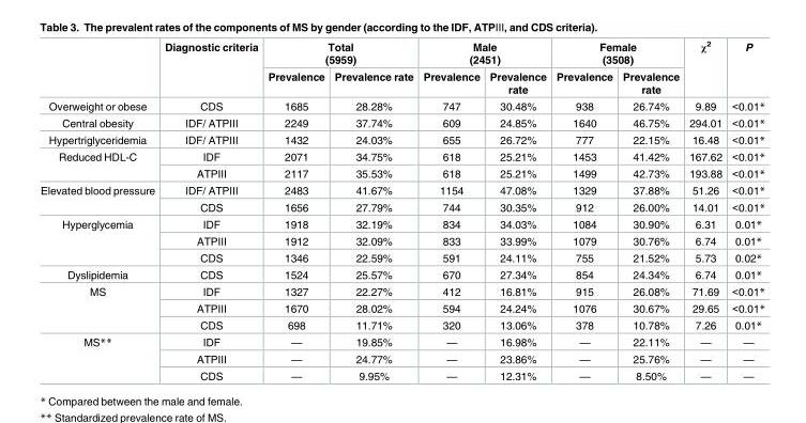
<table><thead><tr><td rowspan="2"></td><td rowspan="2">Diagnostic criteria</td><td colspan="2">Total (5959)</td><td colspan="2">Male (2451)</td><td colspan="2">Female (3508)</td><td rowspan="2">χ<sup>2</sup></td><td rowspan="2">P</td></tr><tr><td>Prevalence</td><td>Prevalence rate</td><td>Prevalence</td><td>Prevalence rate</td><td>Prevalence</td><td>Prevalence rate</td></tr></thead><tbody><tr><td>Overweight or obese</td><td>CDS</td><td>1685</td><td>28.28%</td><td>747</td><td>30.48%</td><td>938</td><td>26.74%</td><td>9.89</td><td>&lt;0.01*</td></tr><tr><td>Central obesity</td><td>IDF/ ATPⅢ</td><td>2249</td><td>37.74%</td><td>609</td><td>24.85%</td><td>1640</td><td>46.75%</td><td>294.01</td><td>&lt;0.01*</td></tr><tr><td>Hypertriglyceridemia</td><td>IDF/ ATPⅢ</td><td>1432</td><td>24.03%</td><td>655</td><td>26.72%</td><td>777</td><td>22.15%</td><td>16.48</td><td>&lt;0.01*</td></tr><tr><td rowspan="2">Reduced HDL-C</td><td>IDF</td><td>2071</td><td>34.75%</td><td>618</td><td>25.21%</td><td>1453</td><td>41.42%</td><td>167.62</td><td>&lt;0.01*</td></tr><tr><td>ATPⅢ</td><td>2117</td><td>35.53%</td><td>618</td><td>25.21%</td><td>1499</td><td>42.73%</td><td>193.88</td><td>&lt;0.01*</td></tr><tr><td rowspan="2">Elevated blood pressure</td><td>IDF/ ATPⅢ</td><td>2483</td><td>41.67%</td><td>1154</td><td>47.08%</td><td>1329</td><td>37.88%</td><td>51.26</td><td>&lt;0.01*</td></tr><tr><td>CDS</td><td>1656</td><td>27.79%</td><td>744</td><td>30.35%</td><td>912</td><td>26.00%</td><td>14.01</td><td>&lt;0.01*</td></tr><tr><td rowspan="3">Hyperglycemia</td><td>IDF</td><td>1918</td><td>32.19%</td><td>834</td><td>34.03%</td><td>1084</td><td>30.90%</td><td>6.31</td><td>0.01*</td></tr><tr><td>ATPⅢ</td><td>1912</td><td>32.09%</td><td>833</td><td>33.99%</td><td>1079</td><td>30.76%</td><td>6.74</td><td>0.01*</td></tr><tr><td>CDS</td><td>1346</td><td>22.59%</td><td>591</td><td>24.11%</td><td>755</td><td>21.52%</td><td>5.73</td><td>0.02*</td></tr><tr><td>Dyslipidemia</td><td>CDS</td><td>1524</td><td>25.57%</td><td>670</td><td>27.34%</td><td>854</td><td>24.34%</td><td>6.74</td><td>0.01*</td></tr><tr><td rowspan="3">MS</td><td>IDF</td><td>1327</td><td>22.27%</td><td>412</td><td>16.81%</td><td>915</td><td>26.08%</td><td>71.69</td><td>&lt;0.01*</td></tr><tr><td>ATPⅢ</td><td>1670</td><td>28.02%</td><td>594</td><td>24.24%</td><td>1076</td><td>30.67%</td><td>29.65</td><td>&lt;0.01*</td></tr><tr><td>CDS</td><td>698</td><td>11.71%</td><td>320</td><td>13.06%</td><td>378</td><td>10.78%</td><td>7.26</td><td>0.01*</td></tr><tr><td rowspan="3">MS**</td><td>IDF</td><td>—</td><td>19.85%</td><td>—</td><td>16.98%</td><td>—</td><td>22.11%</td><td>—</td><td>—</td></tr><tr><td>ATPⅢ</td><td>—</td><td>24.77%</td><td>—</td><td>23.86%</td><td>—</td><td>25.76%</td><td>—</td><td>—</td></tr><tr><td>CDS</td><td>—</td><td>9.95%</td><td>—</td><td>12.31%</td><td>—</td><td>8.50%</td><td>—</td><td>—</td></tr></tbody></table>